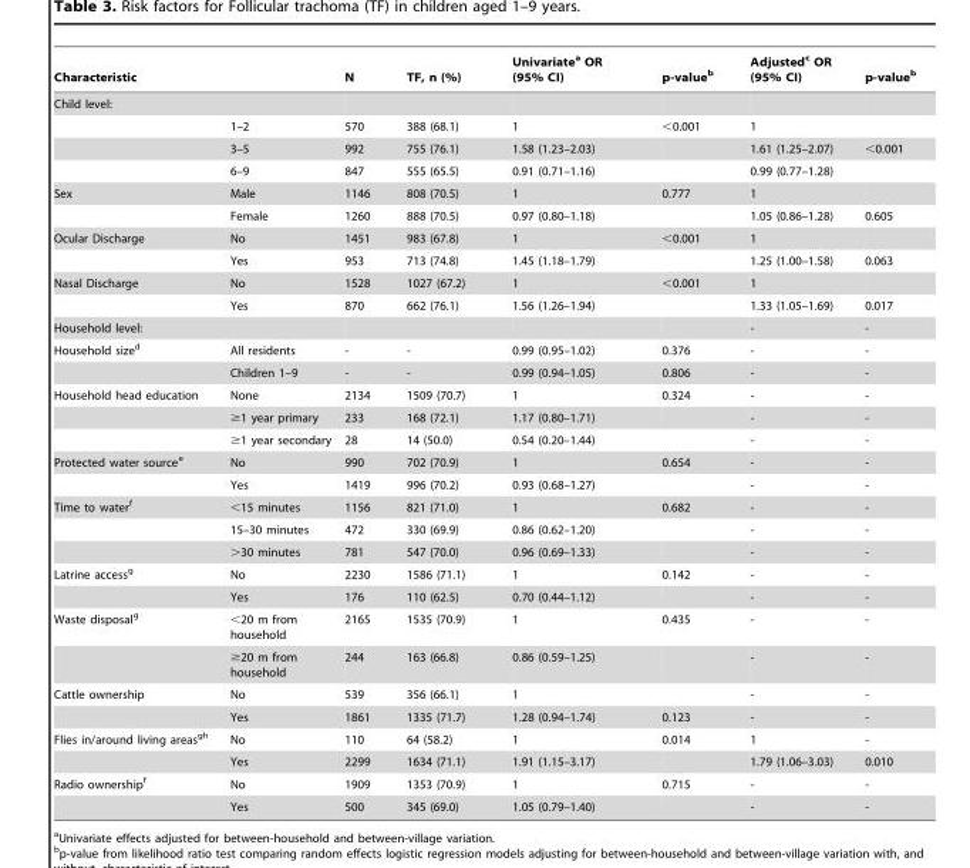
<table><thead><tr><td rowspan="2" colspan="2">Characteristic Child level:</td><td rowspan="3">N 570</td><td rowspan="3">TF, n (%) 388 (68.1)</td><td rowspan="3">Univariate<sup>a</sup> OR (95% CI) 1</td><td rowspan="3">p-value<sup>b</sup> &lt;0.001</td><td rowspan="3">Adjusted<sup>c</sup> OR (95% CI) 1</td><td rowspan="3">p-value<sup>b</sup></td></tr><tr></tr><tr><td></td><td>1–2</td></tr></thead><tbody><tr><td></td><td>3–5</td><td>992</td><td>755 (76.1)</td><td>1.58 (1.23–2.03)</td><td></td><td>1.61 (1.25–2.07)</td><td>&lt;0.001</td></tr><tr><td></td><td>6–9</td><td>847</td><td>555 (65.5)</td><td>0.91 (0.71–1.16)</td><td></td><td>0.99 (0.77–1.28)</td><td></td></tr><tr><td rowspan="2">Sex</td><td>Male</td><td>1146</td><td>808 (70.5)</td><td>1</td><td>0.777</td><td>1</td><td></td></tr><tr><td>Female</td><td>1260</td><td>888 (70.5)</td><td>0.97 (0.80–1.18)</td><td></td><td>1.05 (0.86–1.28)</td><td>0.605</td></tr><tr><td rowspan="2">Ocular Discharge</td><td>No</td><td>1451</td><td>983 (67.8)</td><td>1</td><td>&lt;0.001</td><td>1</td><td></td></tr><tr><td>Yes</td><td>953</td><td>713 (74.8)</td><td>1.45 (1.18–1.79)</td><td></td><td>1.25 (1.00–1.58)</td><td>0.063</td></tr><tr><td rowspan="2">Nasal Discharge</td><td>No</td><td>1528</td><td>1027 (67.2)</td><td>1</td><td>&lt;0.001</td><td>1</td><td></td></tr><tr><td>Yes</td><td>870</td><td>662 (76.1)</td><td>1.56 (1.26–1.94)</td><td></td><td>1.33 (1.05–1.69)</td><td>0.017</td></tr><tr><td colspan="2">Household level:</td><td></td><td></td><td></td><td></td><td>-</td><td>-</td></tr><tr><td rowspan="2">Household size<sup>d</sup></td><td>All residents</td><td>-</td><td>-</td><td>0.99 (0.95–1.02)</td><td>0.376</td><td>-</td><td>-</td></tr><tr><td>Children 1–9</td><td>-</td><td>-</td><td>0.99 (0.94–1.05)</td><td>0.806</td><td>-</td><td>-</td></tr><tr><td rowspan="3">Household head education</td><td>None</td><td>2134</td><td>1509 (70.7)</td><td>1</td><td>0.324</td><td>-</td><td>-</td></tr><tr><td>≥1 year primary</td><td>233</td><td>168 (72.1)</td><td>1.17 (0.80–1.71)</td><td></td><td>-</td><td>-</td></tr><tr><td>≥1 year secondary</td><td>28</td><td>14 (50.0)</td><td>0.54 (0.20–1.44)</td><td></td><td>-</td><td>-</td></tr><tr><td rowspan="2">Protected water source<sup>e</sup></td><td>No</td><td>990</td><td>702 (70.9)</td><td>1</td><td>0.654</td><td>-</td><td>-</td></tr><tr><td>Yes</td><td>1419</td><td>996 (70.2)</td><td>0.93 (0.68–1.27)</td><td></td><td>-</td><td>-</td></tr><tr><td rowspan="3">Time to water<sup>f</sup></td><td>&lt;15 minutes</td><td>1156</td><td>821 (71.0)</td><td>1</td><td>0.682</td><td>-</td><td>-</td></tr><tr><td>15–30 minutes</td><td>472</td><td>330 (69.9)</td><td>0.86 (0.62–1.20)</td><td></td><td>-</td><td>-</td></tr><tr><td>&gt;30 minutes</td><td>781</td><td>547 (70.0)</td><td>0.96 (0.69–1.33)</td><td></td><td>-</td><td>-</td></tr><tr><td rowspan="2">Latrine access<sup>g</sup></td><td>No</td><td>2230</td><td>1586 (71.1)</td><td>1</td><td>0.142</td><td>-</td><td>-</td></tr><tr><td>Yes</td><td>176</td><td>110 (62.5)</td><td>0.70 (0.44–1.12)</td><td></td><td>-</td><td>-</td></tr><tr><td rowspan="2">Waste disposal<sup>g</sup></td><td>&lt;20 m from household</td><td>2165</td><td>1535 (70.9)</td><td>1</td><td>0.435</td><td>-</td><td>-</td></tr><tr><td>≥20 m from household</td><td>244</td><td>163 (66.8)</td><td>0.86 (0.59–1.25)</td><td></td><td>-</td><td>-</td></tr><tr><td rowspan="2">Cattle ownership</td><td>No</td><td>539</td><td>356 (66.1)</td><td>1</td><td></td><td>-</td><td>-</td></tr><tr><td>Yes</td><td>1861</td><td>1335 (71.7)</td><td>1.28 (0.94–1.74)</td><td>0.123</td><td>-</td><td>-</td></tr><tr><td rowspan="2">Flies in/around living areas<sup>gh</sup></td><td>No</td><td>110</td><td>64 (58.2)</td><td>1</td><td>0.014</td><td>1</td><td>-</td></tr><tr><td>Yes</td><td>2299</td><td>1634 (71.1)</td><td>1.91 (1.15–3.17)</td><td></td><td>1.79 (1.06–3.03)</td><td>0.010</td></tr><tr><td rowspan="2">Radio ownership<sup>f</sup></td><td>No</td><td>1909</td><td>1353 (70.9)</td><td>1</td><td>0.715</td><td>-</td><td>-</td></tr><tr><td>Yes</td><td>500</td><td>345 (69.0)</td><td>1.05 (0.79–1.40)</td><td></td><td>-</td><td>-</td></tr></tbody></table>